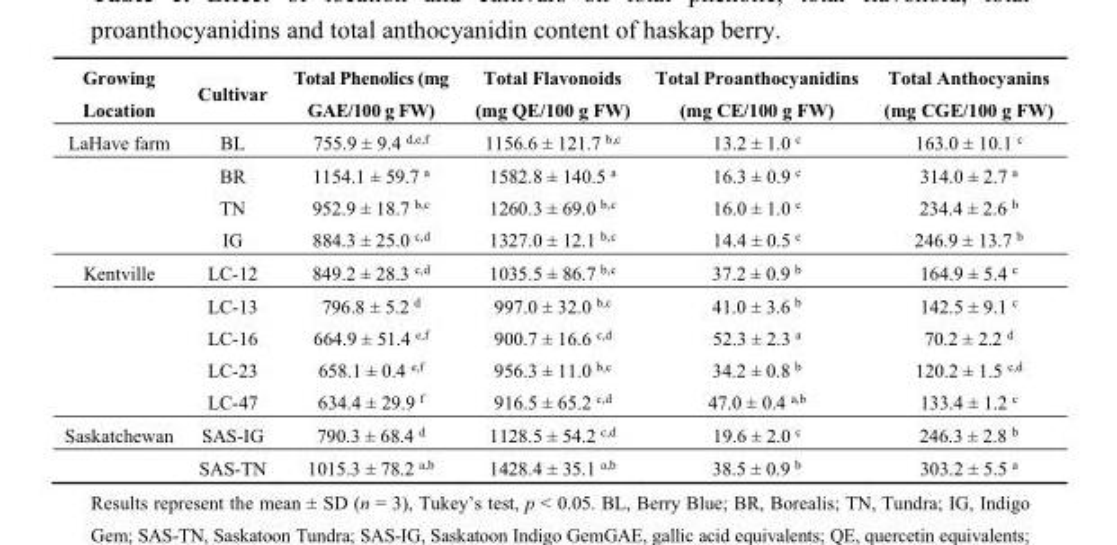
<table><thead><tr><td>Growing Location</td><td>Cultivar</td><td>Total Phenolics (mg GAE/100 g FW)</td><td>Total Flavonoids (mg QE/100 g FW)</td><td>Total Proanthocyanidins (mg CE/100 g FW)</td><td>Total Anthocyanins (mg CGE/100 g FW)</td></tr></thead><tbody><tr><td rowspan="4">LaHave farm</td><td>BL</td><td>755.9 ± 9.4 <sup>d,e,f</sup></td><td>1156.6 ± 121.7 <sup>b,c</sup></td><td>13.2 ± 1.0 <sup>c</sup></td><td>163.0 ± 10.1 <sup>c</sup></td></tr><tr><td>BR</td><td>1154.1 ± 59.7 <sup>a</sup></td><td>1582.8 ± 140.5 <sup>a</sup></td><td>16.3 ± 0.9 <sup>c</sup></td><td>314.0 ± 2.7 <sup>a</sup></td></tr><tr><td>TN</td><td>952.9 ± 18.7 <sup>b,c</sup></td><td>1260.3 ± 69.0 <sup>b,c</sup></td><td>16.0 ± 1.0 <sup>c</sup></td><td>234.4 ± 2.6 <sup>b</sup></td></tr><tr><td>IG</td><td>884.3 ± 25.0 <sup>c,d</sup></td><td>1327.0 ± 12.1 <sup>b,c</sup></td><td>14.4 ± 0.5 <sup>c</sup></td><td>246.9 ± 13.7 <sup>b</sup></td></tr><tr><td rowspan="5">Kentville</td><td>LC-12</td><td>849.2 ± 28.3 <sup>c,d</sup></td><td>1035.5 ± 86.7 <sup>b,c</sup></td><td>37.2 ± 0.9 <sup>b</sup></td><td>164.9 ± 5.4 <sup>c</sup></td></tr><tr><td>LC-13</td><td>796.8 ± 5.2 <sup>d</sup></td><td>997.0 ± 32.0 <sup>b,c</sup></td><td>41.0 ± 3.6 <sup>b</sup></td><td>142.5 ± 9.1 <sup>c</sup></td></tr><tr><td>LC-16</td><td>664.9 ± 51.4 <sup>e,f</sup></td><td>900.7 ± 16.6 <sup>c,d</sup></td><td>52.3 ± 2.3 <sup>a</sup></td><td>70.2 ± 2.2 <sup>d</sup></td></tr><tr><td>LC-23</td><td>658.1 ± 0.4 <sup>e,f</sup></td><td>956.3 ± 11.0 <sup>b,c</sup></td><td>34.2 ± 0.8 <sup>b</sup></td><td>120.2 ± 1.5 <sup>c,d</sup></td></tr><tr><td>LC-47</td><td>634.4 ± 29.9 <sup>f</sup></td><td>916.5 ± 65.2 <sup>c,d</sup></td><td>47.0 ± 0.4 <sup>a,b</sup></td><td>133.4 ± 1.2 <sup>c</sup></td></tr><tr><td rowspan="2">Saskatchewan</td><td>SAS-IG</td><td>790.3 ± 68.4 <sup>d</sup></td><td>1128.5 ± 54.2 <sup>c,d</sup></td><td>19.6 ± 2.0 <sup>c</sup></td><td>246.3 ± 2.8 <sup>b</sup></td></tr><tr><td>SAS-TN</td><td>1015.3 ± 78.2 <sup>a,b</sup></td><td>1428.4 ± 35.1 <sup>a,b</sup></td><td>38.5 ± 0.9 <sup>b</sup></td><td>303.2 ± 5.5 <sup>a</sup></td></tr></tbody></table>